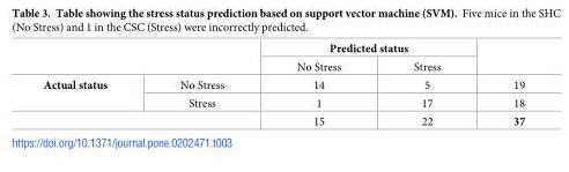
<table><thead><tr><td rowspan="2"></td><td rowspan="2"></td><td colspan="2">Predicted status</td><td rowspan="2"></td></tr><tr><td>No Stress</td><td>Stress</td></tr></thead><tbody><tr><td rowspan="2">Actual status</td><td>No Stress</td><td>14</td><td>5</td><td>19</td></tr><tr><td>Stress</td><td>1</td><td>17</td><td>18</td></tr><tr><td colspan="2"></td><td>15</td><td>22</td><td>37</td></tr></tbody></table>